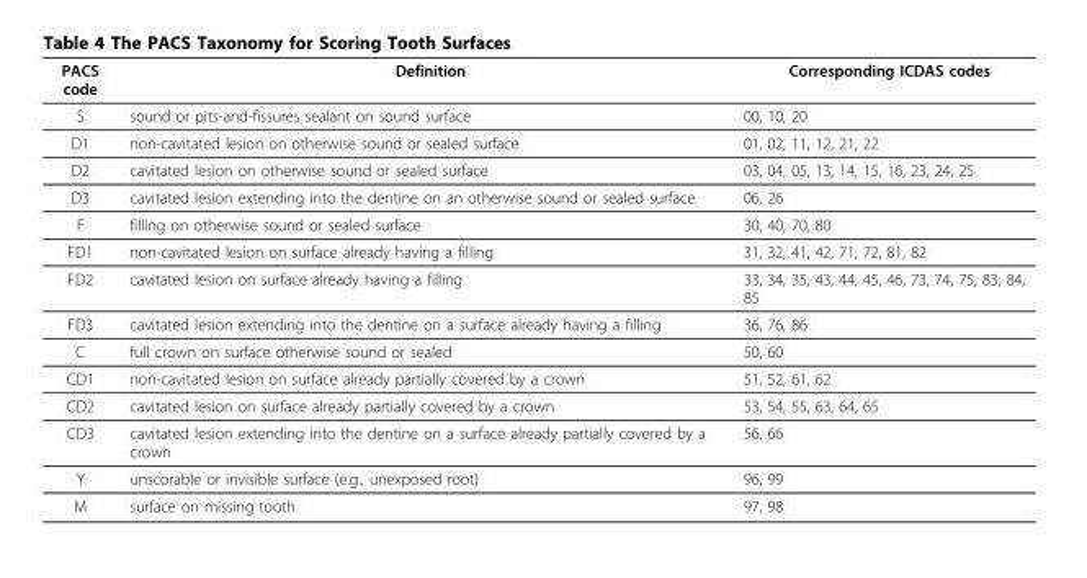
<table><thead><tr><td>PACS code</td><td>Definition</td><td>Corresponding ICDAS codes</td></tr></thead><tbody><tr><td>S</td><td>sound or pits-and-fissures sealant on sound surface</td><td>00, 10, 20</td></tr><tr><td>D1</td><td>non-cavitated lesion on otherwise sound or sealed surface</td><td>01, 02, 11, 12, 21, 22</td></tr><tr><td>D2</td><td>cavitated lesion on otherwise sound or sealed surface</td><td>03, 04, 05, 13, 14, 15, 16, 23, 24, 25</td></tr><tr><td>D3</td><td>cavitated lesion extending into the dentine on an otherwise sound or sealed surface</td><td>06, 26</td></tr><tr><td>F</td><td>filling on otherwise sound or sealed surface</td><td>30, 40, 70, 80</td></tr><tr><td>FD1</td><td>non-cavitated lesion on surface already having a filling</td><td>31, 32, 41, 42, 71, 72, 81, 82</td></tr><tr><td>FD2</td><td>cavitated lesion on surface already having a filling</td><td>33, 34, 35, 43, 44, 45, 46, 73, 74, 75, 83, 84, 85</td></tr><tr><td>FD3</td><td>cavitated lesion extending into the dentine on a surface already having a filling</td><td>36, 76, 86</td></tr><tr><td>C</td><td>full crown on surface otherwise sound or sealed</td><td>50, 60</td></tr><tr><td>CD1</td><td>non-cavitated lesion on surface already partially covered by a crown</td><td>51, 52, 61, 62</td></tr><tr><td>CD2</td><td>cavitated lesion on surface already partially covered by a crown</td><td>53, 54, 55, 63, 64, 65</td></tr><tr><td>CD3</td><td>cavitated lesion extending into the dentine on a surface already partially covered by a crown</td><td>56, 66</td></tr><tr><td>Y</td><td>unscorable or invisible surface (e.g., unexposed root)</td><td>96, 99</td></tr><tr><td>M</td><td>surface on missing tooth</td><td>97, 98</td></tr></tbody></table>